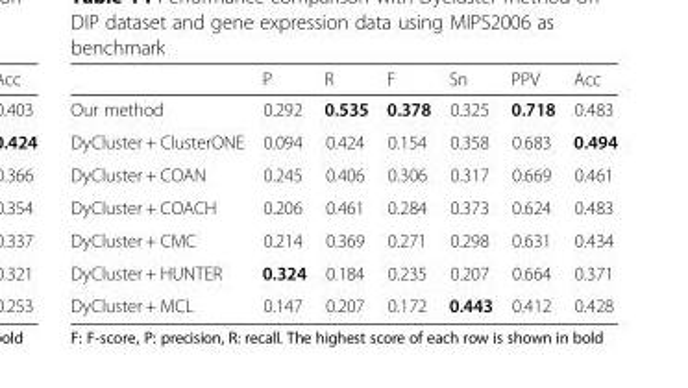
<table><thead><tr><td></td><td>P</td><td>R</td><td>F</td><td>Sn</td><td>PPV</td><td>Acc</td></tr></thead><tbody><tr><td>Our method</td><td>0.292</td><td>0.535</td><td>0.378</td><td>0.325</td><td>0.718</td><td>0.483</td></tr><tr><td>DyCluster + ClusterONE</td><td>0.094</td><td>0.424</td><td>0.154</td><td>0.358</td><td>0.683</td><td>0.494</td></tr><tr><td>DyCluster + COAN</td><td>0.245</td><td>0.406</td><td>0.306</td><td>0.317</td><td>0.669</td><td>0.461</td></tr><tr><td>DyCluster + COACH</td><td>0.206</td><td>0.461</td><td>0.284</td><td>0.373</td><td>0.624</td><td>0.483</td></tr><tr><td>DyCluster + CMC</td><td>0.214</td><td>0.369</td><td>0.271</td><td>0.298</td><td>0.631</td><td>0.434</td></tr><tr><td>DyCluster + HUNTER</td><td>0.324</td><td>0.184</td><td>0.235</td><td>0.207</td><td>0.664</td><td>0.371</td></tr><tr><td>DyCluster + MCL</td><td>0.147</td><td>0.207</td><td>0.172</td><td>0.443</td><td>0.412</td><td>0.428</td></tr></tbody></table>